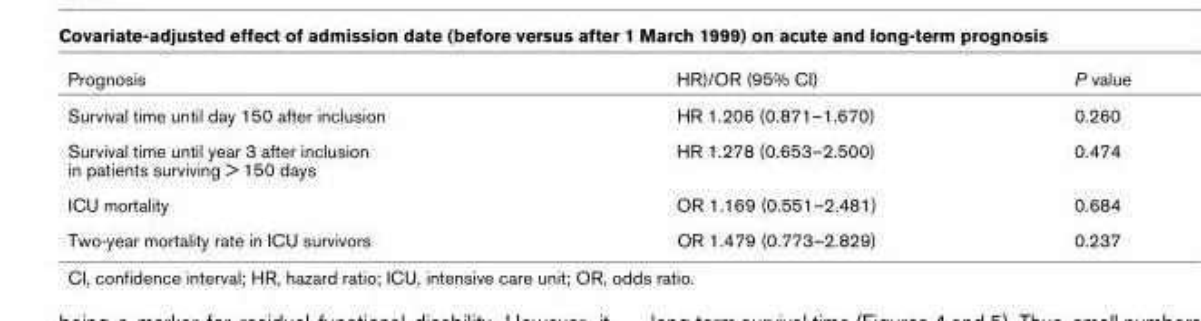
<table><thead><tr><td>Prognosis</td><td>HR)/OR (95% CI)</td><td>P value</td></tr></thead><tbody><tr><td>Survival time until day 150 after inclusion</td><td>HR 1.206 (0.871–1.670)</td><td>0.260</td></tr><tr><td>Survival time until year 3 after inclusion in patients surviving &gt; 150 days</td><td>HR 1.278 (0.653–2.500)</td><td>0.474</td></tr><tr><td>ICU mortality</td><td>OR 1.169 (0.551–2.481)</td><td>0.684</td></tr><tr><td>Two-year mortality rate in ICU survivors</td><td>OR 1.479 (0.773–2.829)</td><td>0.237</td></tr></tbody></table>